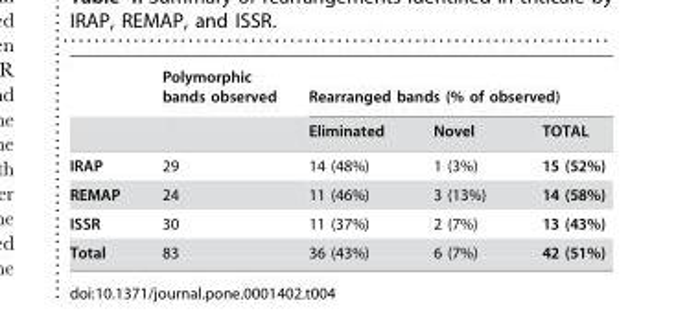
<table><thead><tr><td rowspan="2"></td><td rowspan="2">Polymorphic bands observed</td><td colspan="3">Rearranged bands (% of observed)</td></tr><tr><td>Eliminated</td><td>Novel</td><td>TOTAL</td></tr></thead><tbody><tr><td>IRAP</td><td>29</td><td>14 (48%)</td><td>1 (3%)</td><td>15 (52%)</td></tr><tr><td>REMAP</td><td>24</td><td>11 (46%)</td><td>3 (13%)</td><td>14 (58%)</td></tr><tr><td>ISSR</td><td>30</td><td>11 (37%)</td><td>2 (7%)</td><td>13 (43%)</td></tr><tr><td>Total</td><td>83</td><td>36 (43%)</td><td>6 (7%)</td><td>42 (51%)</td></tr></tbody></table>